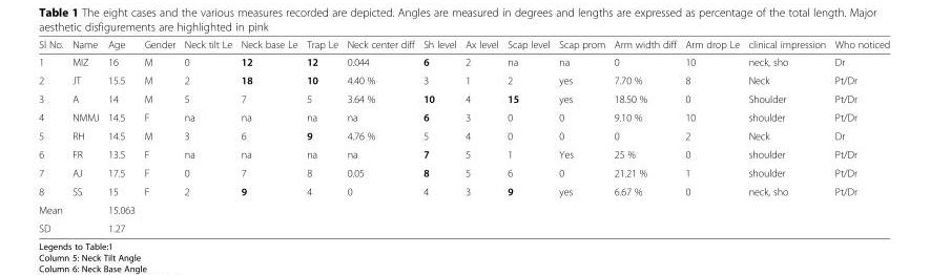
<table><thead><tr><td>Sl No.</td><td>Name</td><td>Age</td><td>Gender</td><td>Neck tilt Le</td><td>Neck base Le</td><td>Trap Le</td><td>Neck center diff</td><td>Sh level</td><td>Ax level</td><td>Scap level</td><td>Scap prom</td><td>Arm width diff</td><td>Arm drop Le</td><td>clinical impression</td><td>Who noticed</td></tr></thead><tbody><tr><td>1</td><td>MIZ</td><td>16</td><td>M</td><td>0</td><td>12</td><td>12</td><td>0.044</td><td>6</td><td>2</td><td>na</td><td>na</td><td>0</td><td>10</td><td>neck, sho</td><td>Dr</td></tr><tr><td>2</td><td>JT</td><td>15.5</td><td>M</td><td>2</td><td>18</td><td>10</td><td>4.40 %</td><td>3</td><td>1</td><td>2</td><td>yes</td><td>7.70 %</td><td>8</td><td>Neck</td><td>Pt/Dr</td></tr><tr><td>3</td><td>A</td><td>14</td><td>M</td><td>5</td><td>7</td><td>5</td><td>3.64 %</td><td>10</td><td>4</td><td>15</td><td>yes</td><td>18.50 %</td><td>0</td><td>Shoulder</td><td>Pt/Dr</td></tr><tr><td>4</td><td>NMMJ</td><td>14.5</td><td>F</td><td>na</td><td>na</td><td>na</td><td>na</td><td>6</td><td>3</td><td>0</td><td>0</td><td>9.10 %</td><td>10</td><td>shoulder</td><td>Pt/Dr</td></tr><tr><td>5</td><td>RH</td><td>14.5</td><td>M</td><td>3</td><td>6</td><td>9</td><td>4.76 %</td><td>5</td><td>4</td><td>0</td><td>0</td><td>0</td><td>2</td><td>Neck</td><td>Dr</td></tr><tr><td>6</td><td>FR</td><td>13.5</td><td>F</td><td>na</td><td>na</td><td>na</td><td>na</td><td>7</td><td>5</td><td>1</td><td>Yes</td><td>25 %</td><td>0</td><td>shoulder</td><td>Pt/Dr</td></tr><tr><td>7</td><td>AJ</td><td>17.5</td><td>F</td><td>0</td><td>7</td><td>8</td><td>0.05</td><td>8</td><td>5</td><td>6</td><td>0</td><td>21.21 %</td><td>1</td><td>shoulder</td><td>Pt/Dr</td></tr><tr><td>8</td><td>SS</td><td>15</td><td>F</td><td>2</td><td>9</td><td>4</td><td>0</td><td>4</td><td>3</td><td>9</td><td>yes</td><td>6.67 %</td><td>0</td><td>neck, sho</td><td>Pt/Dr</td></tr><tr><td colspan="2">Mean</td><td>15.063</td><td></td><td></td><td></td><td></td><td></td><td></td><td></td><td></td><td></td><td></td><td></td><td></td><td></td></tr><tr><td>SD</td><td></td><td>1.27</td><td></td><td></td><td></td><td></td><td></td><td></td><td></td><td></td><td></td><td></td><td></td><td></td><td></td></tr></tbody></table>